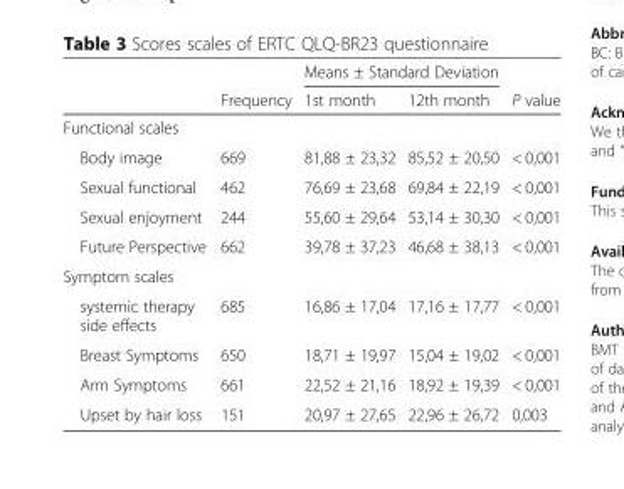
<table><thead><tr><td rowspan="2"></td><td rowspan="2">Frequency</td><td colspan="2">Means ± Standard Deviation</td><td rowspan="2">P value</td></tr><tr><td>1st month</td><td>12th month</td></tr></thead><tbody><tr><td colspan="5">Functional scales</td></tr><tr><td>Body image</td><td>669</td><td>81,88 ± 23,32</td><td>85,52 ± 20,50</td><td>&lt; 0,001</td></tr><tr><td>Sexual functional</td><td>462</td><td>76,69 ± 23,68</td><td>69,84 ± 22,19</td><td>&lt; 0,001</td></tr><tr><td>Sexual enjoyment</td><td>244</td><td>55,60 ± 29,64</td><td>53,14 ± 30,30</td><td>&lt; 0,001</td></tr><tr><td>Future Perspective</td><td>662</td><td>39,78 ± 37,23</td><td>46,68 ± 38,13</td><td>&lt; 0,001</td></tr><tr><td colspan="5">Symptom scales</td></tr><tr><td>systemic therapy side effects</td><td>685</td><td>16,86 ± 17,04</td><td>17,16 ± 17,77</td><td>&lt; 0,001</td></tr><tr><td>Breast Symptoms</td><td>650</td><td>18,71 ± 19,97</td><td>15,04 ± 19,02</td><td>&lt; 0,001</td></tr><tr><td>Arm Symptoms</td><td>661</td><td>22,52 ± 21,16</td><td>18,92 ± 19,39</td><td>&lt; 0,001</td></tr><tr><td>Upset by hair loss</td><td>151</td><td>20,97 ± 27,65</td><td>22,96 ± 26,72</td><td>0,003</td></tr></tbody></table>